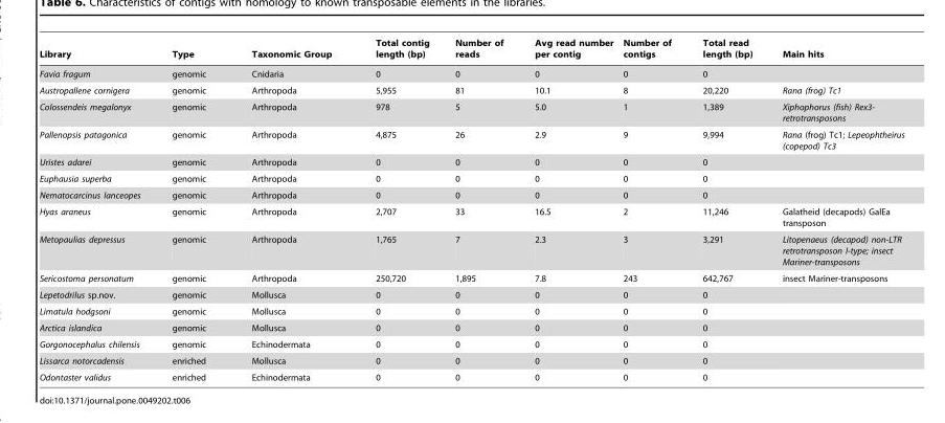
<table><thead><tr><td>Library</td><td>Type</td><td>Taxonomic Group</td><td>Total contig length (bp)</td><td>Number of reads</td><td>Avg read number per contig</td><td>Number of contigs</td><td>Total read length (bp)</td><td>Main hits</td></tr></thead><tbody><tr><td>Favia fragum</td><td>genomic</td><td>Cnidaria</td><td>0</td><td>0</td><td>0</td><td>0</td><td>0</td><td></td></tr><tr><td>Austropallene cornigera</td><td>genomic</td><td>Arthropoda</td><td>5,955</td><td>81</td><td>10.1</td><td>8</td><td>20,220</td><td>Rana (frog) Tc1</td></tr><tr><td>Colossendeis megalonyx</td><td>genomic</td><td>Arthropoda</td><td>978</td><td>5</td><td>5.0</td><td>1</td><td>1,389</td><td>Xiphophorus (fish) Rex3- retrotransposons</td></tr><tr><td>Pallenopsis patagonica</td><td>genomic</td><td>Arthropoda</td><td>4,875</td><td>26</td><td>2.9</td><td>9</td><td>9,994</td><td>Rana (frog) Tc1; Lepeophtheirus (copepod) Tc3</td></tr><tr><td>Uristes adarei</td><td>genomic</td><td>Arthropoda</td><td>0</td><td>0</td><td>0</td><td>0</td><td>0</td><td></td></tr><tr><td>Euphausia superba</td><td>genomic</td><td>Arthropoda</td><td>0</td><td>0</td><td>0</td><td>0</td><td>0</td><td></td></tr><tr><td>Nematocarcinus lanceopes</td><td>genomic</td><td>Arthropoda</td><td>0</td><td>0</td><td>0</td><td>0</td><td>0</td><td></td></tr><tr><td>Hyas araneus</td><td>genomic</td><td>Arthropoda</td><td>2,707</td><td>33</td><td>16.5</td><td>2</td><td>11,246</td><td>Galatheid (decapods) GalEa transposon</td></tr><tr><td>Metopaulias depressus</td><td>genomic</td><td>Arthropoda</td><td>1,765</td><td>7</td><td>2.3</td><td>3</td><td>3,291</td><td>Litopenaeus (decapod) non-LTR retrotransposon I-type; insect Mariner-transposons</td></tr><tr><td>Sericostoma personatum</td><td>genomic</td><td>Arthropoda</td><td>250,720</td><td>1,895</td><td>7.8</td><td>243</td><td>642,767</td><td>insect Mariner-transposons</td></tr><tr><td>Lepetodrilus sp.nov.</td><td>genomic</td><td>Mollusca</td><td>0</td><td>0</td><td>0</td><td>0</td><td>0</td><td></td></tr><tr><td>Limatula hodgsoni</td><td>genomic</td><td>Mollusca</td><td>0</td><td>0</td><td>0</td><td>0</td><td>0</td><td></td></tr><tr><td>Arctica islandica</td><td>genomic</td><td>Mollusca</td><td>0</td><td>0</td><td>0</td><td>0</td><td>0</td><td></td></tr><tr><td>Gorgonocephalus chilensis</td><td>genomic</td><td>Echinodermata</td><td>0</td><td>0</td><td>0</td><td>0</td><td>0</td><td></td></tr><tr><td>Lissarca notorcadensis</td><td>enriched</td><td>Mollusca</td><td>0</td><td>0</td><td>0</td><td>0</td><td>0</td><td></td></tr><tr><td>Odontaster validus</td><td>enriched</td><td>Echinodermata</td><td>0</td><td>0</td><td>0</td><td>0</td><td>0</td><td></td></tr></tbody></table>